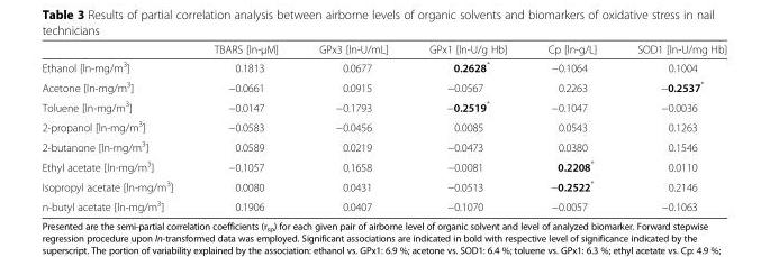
<table><thead><tr><td></td><td>TBARS [ln-μM]</td><td>GPx3 [ln-U/mL]</td><td>GPx1 [ln-U/g Hb]</td><td>Cp [ln-g/L]</td><td>SOD1 [ln-U/mg Hb]</td></tr></thead><tbody><tr><td>Ethanol [ln-mg/m<sup>3</sup>]</td><td>0.1813</td><td>0.0677</td><td>0.2628*</td><td>−0.1064</td><td>0.1004</td></tr><tr><td>Acetone [ln-mg/m<sup>3</sup>]</td><td>−0.0661</td><td>0.0915</td><td>−0.0567</td><td>0.2263</td><td>−0.2537*</td></tr><tr><td>Toluene [ln-mg/m<sup>3</sup>]</td><td>−0.0147</td><td>−0.1793</td><td>−0.2519*</td><td>−0.1047</td><td>−0.0036</td></tr><tr><td>2-propanol [ln-mg/m<sup>3</sup>]</td><td>−0.0583</td><td>−0.0456</td><td>0.0085</td><td>0.0543</td><td>0.1263</td></tr><tr><td>2-butanone [ln-mg/m<sup>3</sup>]</td><td>0.0589</td><td>0.0219</td><td>−0.0473</td><td>0.0380</td><td>0.1546</td></tr><tr><td>Ethyl acetate [ln-mg/m<sup>3</sup>]</td><td>−0.1057</td><td>0.1658</td><td>−0.0081</td><td>0.2208*</td><td>0.0110</td></tr><tr><td>Isopropyl acetate [ln-mg/m<sup>3</sup>]</td><td>0.0080</td><td>0.0431</td><td>−0.0513</td><td>−0.2522*</td><td>0.2146</td></tr><tr><td>n-butyl acetate [ln-mg/m<sup>3</sup>]</td><td>0.1906</td><td>0.0407</td><td>−0.1070</td><td>−0.0057</td><td>−0.1063</td></tr></tbody></table>